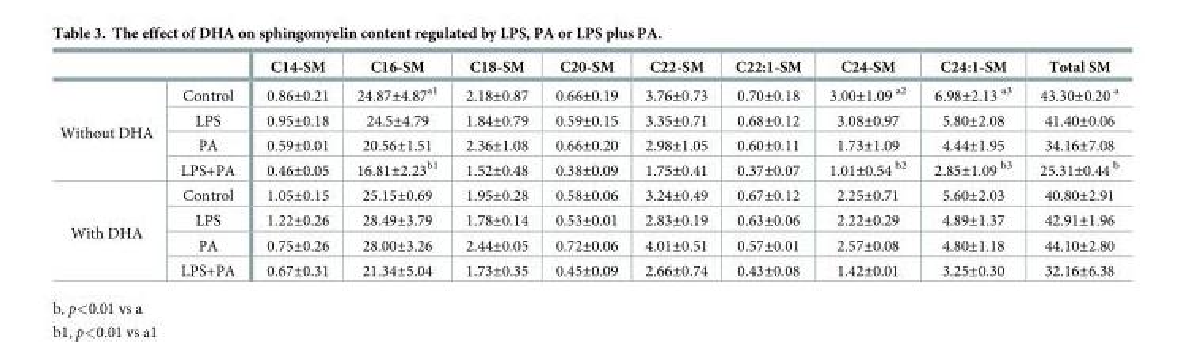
<table><thead><tr><td></td><td></td><td>C14-SM</td><td>C16-SM</td><td>C18-SM</td><td>C20-SM</td><td>C22-SM</td><td>C22:1-SM</td><td>C24-SM</td><td>C24:1-SM</td><td>Total SM</td></tr></thead><tbody><tr><td rowspan="4">Without DHA</td><td>Control</td><td>0.86±0.21</td><td>24.87±4.87<sup>a1</sup></td><td>2.18±0.87</td><td>0.66±0.19</td><td>3.76±0.73</td><td>0.70±0.18</td><td>3.00±1.09 <sup>a2</sup></td><td>6.98±2.13 <sup>a3</sup></td><td>43.30±0.20 <sup>a</sup></td></tr><tr><td>LPS</td><td>0.95±0.18</td><td>24.5±4.79</td><td>1.84±0.79</td><td>0.59±0.15</td><td>3.35±0.71</td><td>0.68±0.12</td><td>3.08±0.97</td><td>5.80±2.08</td><td>41.40±0.06</td></tr><tr><td>PA</td><td>0.59±0.01</td><td>20.56±1.51</td><td>2.36±1.08</td><td>0.66±0.20</td><td>2.98±1.05</td><td>0.60±0.11</td><td>1.73±1.09</td><td>4.44±1.95</td><td>34.16±7.08</td></tr><tr><td>LPS+PA</td><td>0.46±0.05</td><td>16.81±2.23<sup>b1</sup></td><td>1.52±0.48</td><td>0.38±0.09</td><td>1.75±0.41</td><td>0.37±0.07</td><td>1.01±0.54 <sup>b2</sup></td><td>2.85±1.09 <sup>b3</sup></td><td>25.31±0.44 <sup>b</sup></td></tr><tr><td rowspan="4">With DHA</td><td>Control</td><td>1.05±0.15</td><td>25.15±0.69</td><td>1.95±0.28</td><td>0.58±0.06</td><td>3.24±0.49</td><td>0.67±0.12</td><td>2.25±0.71</td><td>5.60±2.03</td><td>40.80±2.91</td></tr><tr><td>LPS</td><td>1.22±0.26</td><td>28.49±3.79</td><td>1.78±0.14</td><td>0.53±0.01</td><td>2.83±0.19</td><td>0.63±0.06</td><td>2.22±0.29</td><td>4.89±1.37</td><td>42.91±1.96</td></tr><tr><td>PA</td><td>0.75±0.26</td><td>28.00±3.26</td><td>2.44±0.05</td><td>0.72±0.06</td><td>4.01±0.51</td><td>0.57±0.01</td><td>2.57±0.08</td><td>4.80±1.18</td><td>44.10±2.80</td></tr><tr><td>LPS+PA</td><td>0.67±0.31</td><td>21.34±5.04</td><td>1.73±0.35</td><td>0.45±0.09</td><td>2.66±0.74</td><td>0.43±0.08</td><td>1.42±0.01</td><td>3.25±0.30</td><td>32.16±6.38</td></tr></tbody></table>